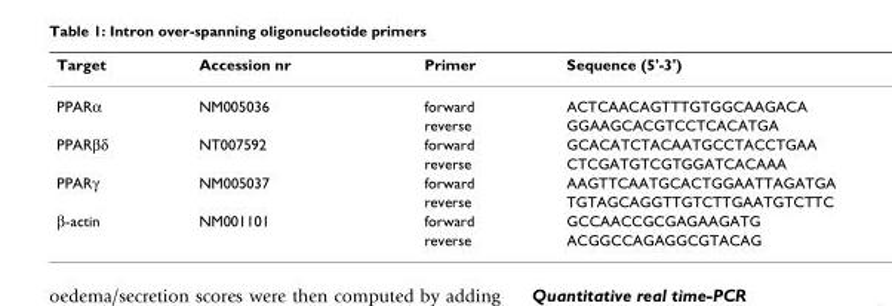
<table><thead><tr><td>Target</td><td>Accession nr</td><td>Primer</td><td>Sequence (5&#x27;-3&#x27;)</td></tr></thead><tbody><tr><td rowspan="2">PPARα</td><td>NM005036</td><td>forward</td><td>ACTCAACAGTTTGTGGCAAGACA</td></tr><tr><td></td><td>reverse</td><td>GGAAGCACGTCCTCACATGA</td></tr><tr><td rowspan="2">PPARβδ</td><td>NT007592</td><td>forward</td><td>GCACATCTACAATGCCTACCTGAA</td></tr><tr><td></td><td>reverse</td><td>CTCGATGTCGTGGATCACAAA</td></tr><tr><td rowspan="2">PPARγ</td><td>NM005037</td><td>forward</td><td>AAGTTCAATGCACTGGAATTAGATGA</td></tr><tr><td></td><td>reverse</td><td>TGTAGCAGGTTGTCTTGAATGTCTTC</td></tr><tr><td rowspan="2">β-actin</td><td>NM001101</td><td>forward</td><td>GCCAACCGCGAGAAGATG</td></tr><tr><td></td><td>reverse</td><td>ACGGCCAGAGGCGTACAG</td></tr></tbody></table>